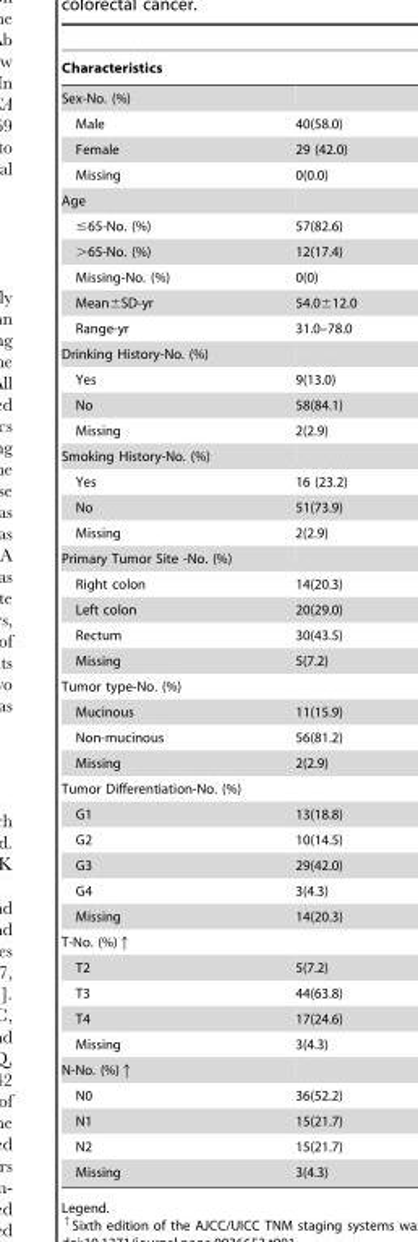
<table><thead><tr><td>Characteristics</td><td></td></tr></thead><tbody><tr><td colspan="2">Sex-No. (%)</td></tr><tr><td>Male</td><td>40(58.0)</td></tr><tr><td>Female</td><td>29 (42.0)</td></tr><tr><td>Missing</td><td>0(0.0)</td></tr><tr><td colspan="2">Age</td></tr><tr><td>≤65-No. (%)</td><td>57(82.6)</td></tr><tr><td>&gt;65-No. (%)</td><td>12(17.4)</td></tr><tr><td>Missing-No. (%)</td><td>0(0)</td></tr><tr><td>Mean±SD-yr</td><td>54.0±12.0</td></tr><tr><td>Range-yr</td><td>31.0–78.0</td></tr><tr><td colspan="2">Drinking History-No. (%)</td></tr><tr><td>Yes</td><td>9(13.0)</td></tr><tr><td>No</td><td>58(84.1)</td></tr><tr><td>Missing</td><td>2(2.9)</td></tr><tr><td colspan="2">Smoking History-No. (%)</td></tr><tr><td>Yes</td><td>16 (23.2)</td></tr><tr><td>No</td><td>51(73.9)</td></tr><tr><td>Missing</td><td>2(2.9)</td></tr><tr><td colspan="2">Primary Tumor Site -No. (%)</td></tr><tr><td>Right colon</td><td>14(20.3)</td></tr><tr><td>Left colon</td><td>20(29.0)</td></tr><tr><td>Rectum</td><td>30(43.5)</td></tr><tr><td>Missing</td><td>5(7.2)</td></tr><tr><td colspan="2">Tumor type-No. (%)</td></tr><tr><td>Mucinous</td><td>11(15.9)</td></tr><tr><td>Non-mucinous</td><td>56(81.2)</td></tr><tr><td>Missing</td><td>2(2.9)</td></tr><tr><td colspan="2">Tumor Differentiation-No. (%)</td></tr><tr><td>G1</td><td>13(18.8)</td></tr><tr><td>G2</td><td>10(14.5)</td></tr><tr><td>G3</td><td>29(42.0)</td></tr><tr><td>G4</td><td>3(4.3)</td></tr><tr><td>Missing</td><td>14(20.3)</td></tr><tr><td colspan="2">T-No. (%)↑</td></tr><tr><td>T2</td><td>5(7.2)</td></tr><tr><td>T3</td><td>44(63.8)</td></tr><tr><td>T4</td><td>17(24.6)</td></tr><tr><td>Missing</td><td>3(4.3)</td></tr><tr><td colspan="2">N-No. (%)↑</td></tr><tr><td>N0</td><td>36(52.2)</td></tr><tr><td>N1</td><td>15(21.7)</td></tr><tr><td>N2</td><td>15(21.7)</td></tr><tr><td>Missing</td><td>3(4.3)</td></tr></tbody></table>